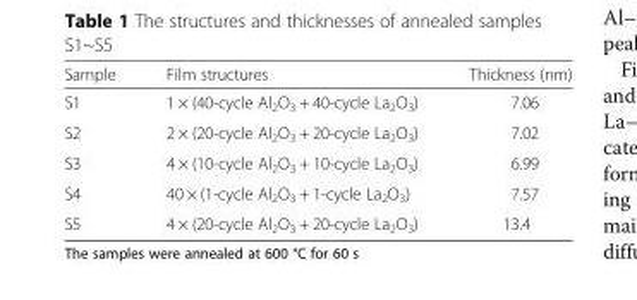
<table><thead><tr><td>Sample</td><td>Film structures</td><td>Thickness (nm)</td></tr></thead><tbody><tr><td>S1</td><td>1 × (40-cycle Al<sub>2</sub>O<sub>3</sub> + 40-cycle La<sub>2</sub>O<sub>3</sub>)</td><td>7.06</td></tr><tr><td>S2</td><td>2 × (20-cycle Al<sub>2</sub>O<sub>3</sub> + 20-cycle La<sub>2</sub>O<sub>3</sub>)</td><td>7.02</td></tr><tr><td>S3</td><td>4 × (10-cycle Al<sub>2</sub>O<sub>3</sub> + 10-cycle La<sub>2</sub>O<sub>3</sub>)</td><td>6.99</td></tr><tr><td>S4</td><td>40 × (1-cycle Al<sub>2</sub>O<sub>3</sub> + 1-cycle La<sub>2</sub>O<sub>3</sub>)</td><td>7.57</td></tr><tr><td>S5</td><td>4 × (20-cycle Al<sub>2</sub>O<sub>3</sub> + 20-cycle La<sub>2</sub>O<sub>3</sub>)</td><td>13.4</td></tr></tbody></table>